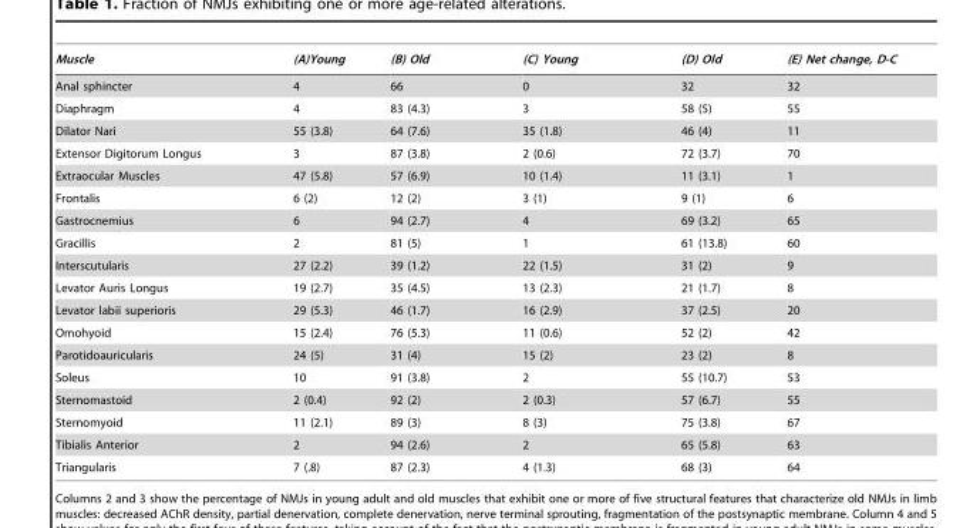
<table><thead><tr><td>Muscle</td><td>(A)Young</td><td>(B) Old</td><td>(C) Young</td><td>(D) Old</td><td>(E) Net change, D-C</td></tr></thead><tbody><tr><td>Anal sphincter</td><td>4</td><td>66</td><td>0</td><td>32</td><td>32</td></tr><tr><td>Diaphragm</td><td>4</td><td>83 (4.3)</td><td>3</td><td>58 (5)</td><td>55</td></tr><tr><td>Dilator Nari</td><td>55 (3.8)</td><td>64 (7.6)</td><td>35 (1.8)</td><td>46 (4)</td><td>11</td></tr><tr><td>Extensor Digitorum Longus</td><td>3</td><td>87 (3.8)</td><td>2 (0.6)</td><td>72 (3.7)</td><td>70</td></tr><tr><td>Extraocular Muscles</td><td>47 (5.8)</td><td>57 (6.9)</td><td>10 (1.4)</td><td>11 (3.1)</td><td>1</td></tr><tr><td>Frontalis</td><td>6 (2)</td><td>12 (2)</td><td>3 (1)</td><td>9 (1)</td><td>6</td></tr><tr><td>Gastrocnemius</td><td>6</td><td>94 (2.7)</td><td>4</td><td>69 (3.2)</td><td>65</td></tr><tr><td>Gracillis</td><td>2</td><td>81 (5)</td><td>1</td><td>61 (13.8)</td><td>60</td></tr><tr><td>Interscutularis</td><td>27 (2.2)</td><td>39 (1.2)</td><td>22 (1.5)</td><td>31 (2)</td><td>9</td></tr><tr><td>Levator Auris Longus</td><td>19 (2.7)</td><td>35 (4.5)</td><td>13 (2.3)</td><td>21 (1.7)</td><td>8</td></tr><tr><td>Levator labii superioris</td><td>29 (5.3)</td><td>46 (1.7)</td><td>16 (2.9)</td><td>37 (2.5)</td><td>20</td></tr><tr><td>Omohyoid</td><td>15 (2.4)</td><td>76 (5.3)</td><td>11 (0.6)</td><td>52 (2)</td><td>42</td></tr><tr><td>Parotidoauricularis</td><td>24 (5)</td><td>31 (4)</td><td>15 (2)</td><td>23 (2)</td><td>8</td></tr><tr><td>Soleus</td><td>10</td><td>91 (3.8)</td><td>2</td><td>55 (10.7)</td><td>53</td></tr><tr><td>Sternomastoid</td><td>2 (0.4)</td><td>92 (2)</td><td>2 (0.3)</td><td>57 (6.7)</td><td>55</td></tr><tr><td>Sternomyoid</td><td>11 (2.1)</td><td>89 (3)</td><td>8 (3)</td><td>75 (3.8)</td><td>67</td></tr><tr><td>Tibialis Anterior</td><td>2</td><td>94 (2.6)</td><td>2</td><td>65 (5.8)</td><td>63</td></tr><tr><td>Triangularis</td><td>7 (.8)</td><td>87 (2.3)</td><td>4 (1.3)</td><td>68 (3)</td><td>64</td></tr></tbody></table>